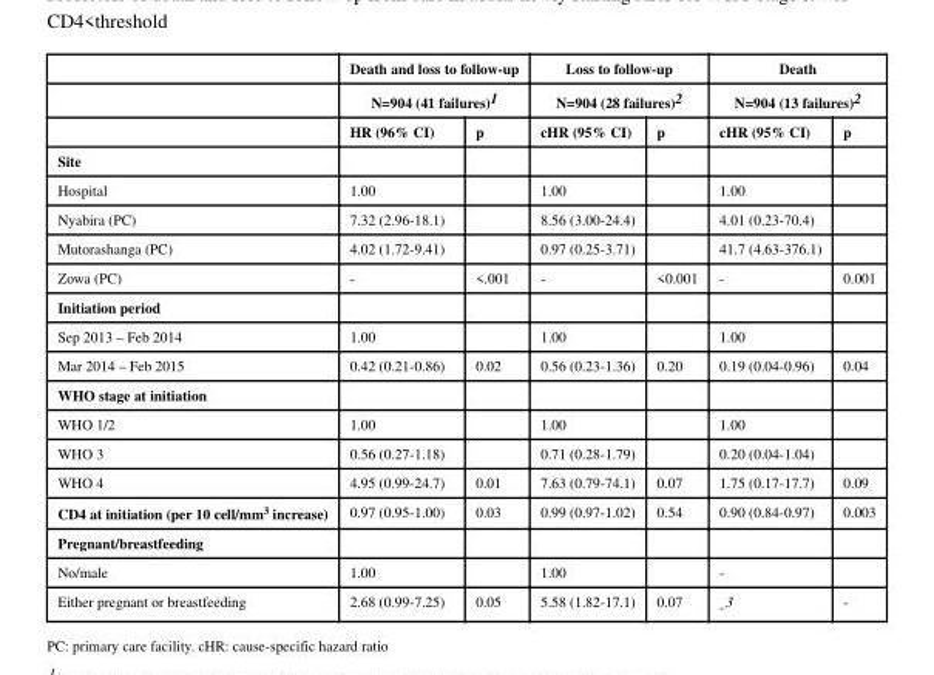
<table><thead><tr><td rowspan="3"></td><td rowspan="2" colspan="2">Death and loss to follow-up N=904 (41 failures)<sup>1</sup></td><td rowspan="2" colspan="2">Loss to follow-up N=904 (28 failures)<sup>2</sup></td><td rowspan="2" colspan="2">Death N=904 (13 failures)<sup>2</sup></td></tr><tr></tr><tr><td>HR (96% CI)</td><td>p</td><td>cHR (95% CI)</td><td>p</td><td>cHR (95% CI)</td><td>p</td></tr></thead><tbody><tr><td colspan="7">Site</td></tr><tr><td>Hospital</td><td>1.00</td><td></td><td>1.00</td><td></td><td>1.00</td><td></td></tr><tr><td>Nyabira (PC)</td><td>7.32 (2.96-18.1)</td><td></td><td>8.56 (3.00-24.4)</td><td></td><td>4.01 (0.23-70.4)</td><td></td></tr><tr><td>Mutorashanga (PC)</td><td>4.02 (1.72-9.41)</td><td></td><td>0.97 (0.25-3.71)</td><td></td><td>41.7 (4.63-376.1)</td><td></td></tr><tr><td>Zowa (PC)</td><td>-</td><td>&lt;.001</td><td>-</td><td>&lt;0.001</td><td>-</td><td>0.001</td></tr><tr><td colspan="7">Initiation period</td></tr><tr><td>Sep 2013 – Feb 2014</td><td>1.00</td><td></td><td>1.00</td><td></td><td>1.00</td><td></td></tr><tr><td>Mar 2014 – Feb 2015</td><td>0.42 (0.21-0.86)</td><td>0.02</td><td>0.56 (0.23-1.36)</td><td>0.20</td><td>0.19 (0.04-0.96)</td><td>0.04</td></tr><tr><td colspan="7">WHO stage at initiation</td></tr><tr><td>WHO 1/2</td><td>1.00</td><td></td><td>1.00</td><td></td><td>1.00</td><td></td></tr><tr><td>WHO 3</td><td>0.56 (0.27-1.18)</td><td></td><td>0.71 (0.28-1.79)</td><td></td><td>0.20 (0.04-1.04)</td><td></td></tr><tr><td>WHO 4</td><td>4.95 (0.99-24.7)</td><td>0.01</td><td>7.63 (0.79-74.1)</td><td>0.07</td><td>1.75 (0.17-17.7)</td><td>0.09</td></tr><tr><td>CD4 at initiation (per 10 cell/mm<sup>3</sup> increase)</td><td>0.97 (0.95-1.00)</td><td>0.03</td><td>0.99 (0.97-1.02)</td><td>0.54</td><td>0.90 (0.84-0.97)</td><td>0.003</td></tr><tr><td colspan="7">Pregnant/breastfeeding</td></tr><tr><td>No/male</td><td>1.00</td><td></td><td>1.00</td><td></td><td>-</td><td></td></tr><tr><td>Either pregnant or breastfeeding</td><td>2.68 (0.99-7.25)</td><td>0.05</td><td>5.58 (1.82-17.1)</td><td>0.07</td><td>-3</td><td>-</td></tr></tbody></table>